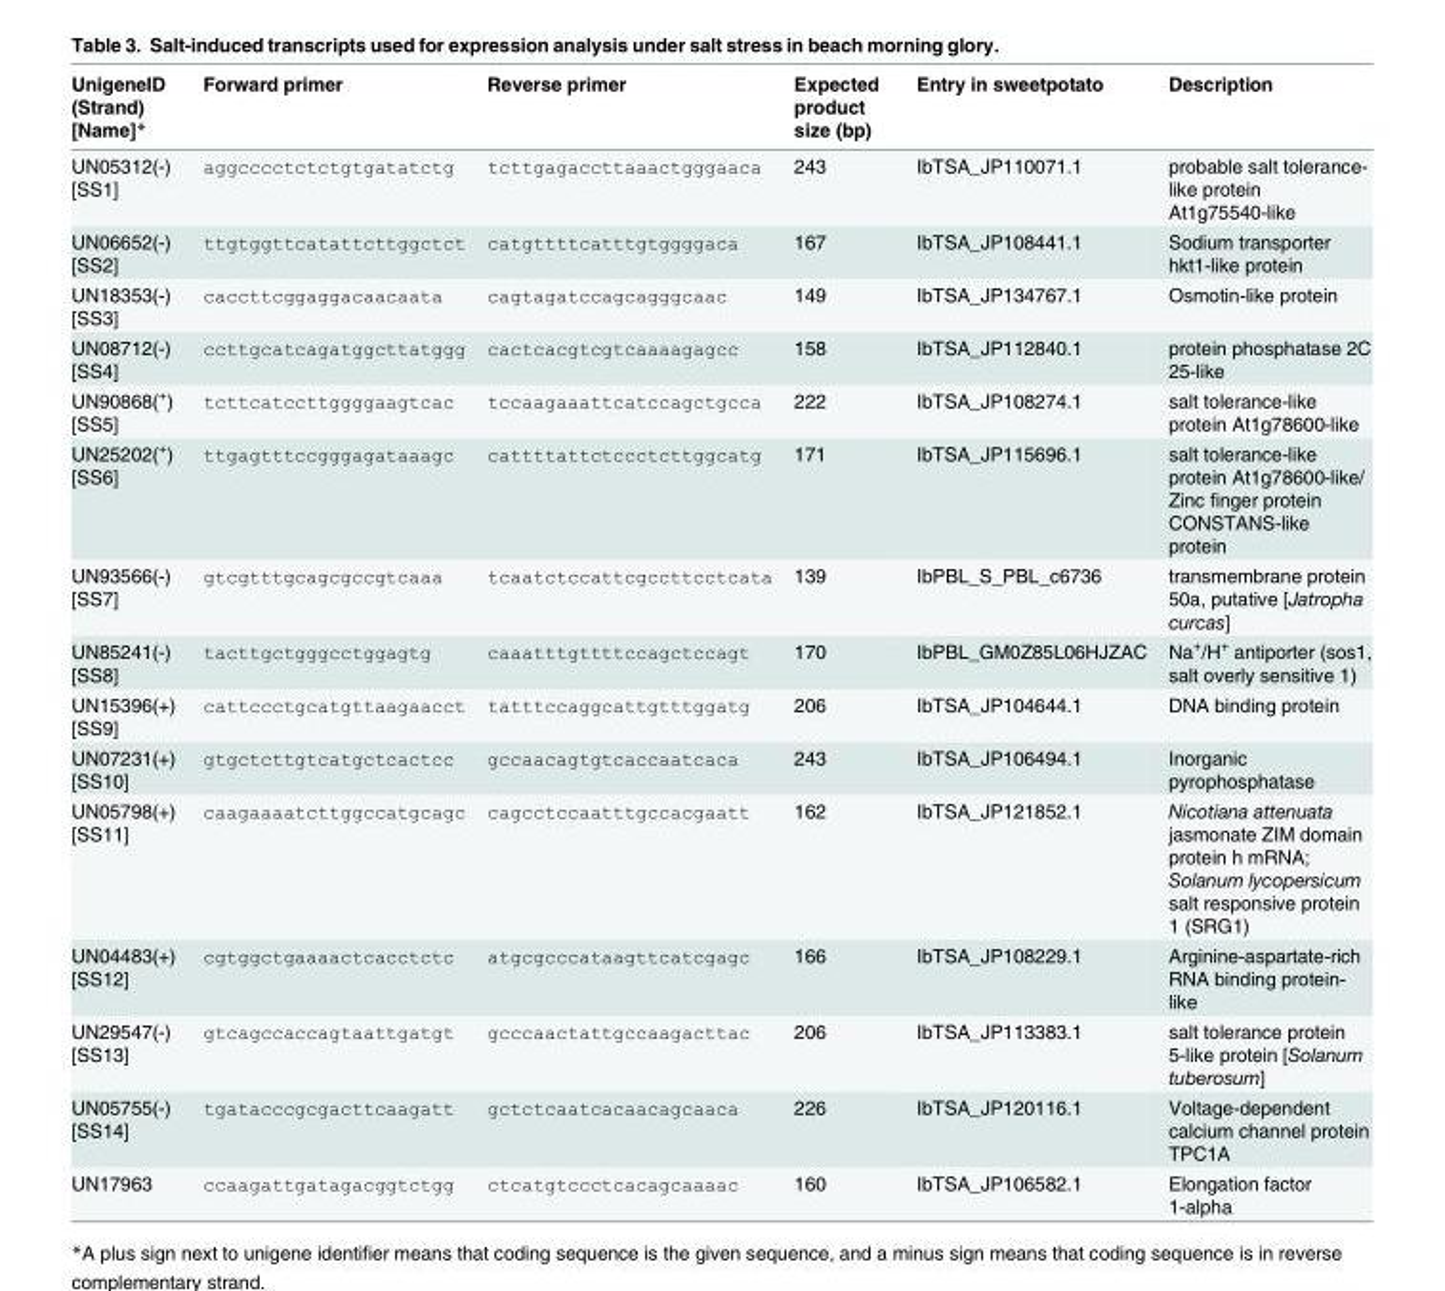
<table><thead><tr><td>UnigeneID (Strand) [Name]*</td><td>Forward primer</td><td>Reverse primer</td><td>Expected product size (bp)</td><td>Entry in sweetpotato</td><td>Description</td></tr></thead><tbody><tr><td>UN05312(-) [SS1]</td><td>aggcccctctctgtgatatctg</td><td>tcttgagaccttaaactgggaaca</td><td>243</td><td>IbTSA_JP110071.1</td><td>probable salt tolerance- like protein At1g75540-like</td></tr><tr><td>UN06652(-) [SS2]</td><td>ttgtggttcatattcttggctct</td><td>catgttttcatttgtggggaca</td><td>167</td><td>IbTSA_JP108441.1</td><td>Sodium transporter hkt1-like protein</td></tr><tr><td>UN18353(-) [SS3]</td><td>caccttcggaggacaacaata</td><td>cagtagatccagcagggcaac</td><td>149</td><td>IbTSA_JP134767.1</td><td>Osmotin-like protein</td></tr><tr><td>UN08712(-) [SS4]</td><td>ccttgcatcagatggcttatggg</td><td>cactcacgtcgtcaaaagagcc</td><td>158</td><td>IbTSA_JP112840.1</td><td>protein phosphatase 2C 25-like</td></tr><tr><td>UN90868(<sup>+</sup>) [SS5]</td><td>tcttcatccttggggaagtcac</td><td>tccaagaaattcatccagctgcca</td><td>222</td><td>IbTSA_JP108274.1</td><td>salt tolerance-like protein At1g78600-like</td></tr><tr><td>UN25202(<sup>+</sup>) [SS6]</td><td>ttgagtttccgggagataaagc</td><td>cattttattctccctcttggcatg</td><td>171</td><td>IbTSA_JP115696.1</td><td>salt tolerance-like protein At1g78600-like/ Zinc finger protein CONSTANS-like protein</td></tr><tr><td>UN93566(-) [SS7]</td><td>gtcgtttgcagcgccgtcaaa</td><td>tcaatctccattcgccttcctcata</td><td>139</td><td>IbPBL_S_PBL_c6736</td><td>transmembrane protein 50a, putative [Jatropha curcas]</td></tr><tr><td>UN85241(-) [SS8]</td><td>tacttgctgggcctggagtg</td><td>caaatttgttttccagctccagt</td><td>170</td><td>IbPBL_GM0Z85L06HJZAC</td><td>Na<sup>+</sup>/H<sup>+</sup> antiporter (sos1, salt overly sensitive 1)</td></tr><tr><td>UN15396(+) [SS9]</td><td>cattccctgcatgttaagaacct</td><td>tatttccaggcattgtttggatg</td><td>206</td><td>IbTSA_JP104644.1</td><td>DNA binding protein</td></tr><tr><td>UN07231(+) [SS10]</td><td>gtgctcttgtcatgctcactcc</td><td>gccaacagtgtcaccaatcaca</td><td>243</td><td>IbTSA_JP106494.1</td><td>Inorganic pyrophosphatase</td></tr><tr><td>UN05798(+) [SS11]</td><td>caagaaaatcttggccatgcagc</td><td>cagcctccaatttgccacgaatt</td><td>162</td><td>IbTSA_JP121852.1</td><td>Nicotiana attenuata jasmonate ZIM domain protein h mRNA; Solanum lycopersicum salt responsive protein 1 (SRG1)</td></tr><tr><td>UN04483(+) [SS12]</td><td>cgtggctgaaaactcacctctc</td><td>atgcgcccataagttcatcgagc</td><td>166</td><td>IbTSA_JP108229.1</td><td>Arginine-aspartate-rich RNA binding protein- like</td></tr><tr><td>UN29547(-) [SS13]</td><td>gtcagccaccagtaattgatgt</td><td>gcccaactattgccaagacttac</td><td>206</td><td>IbTSA_JP113383.1</td><td>salt tolerance protein 5-like protein [Solanum tuberosum]</td></tr><tr><td>UN05755(-) [SS14]</td><td>tgatacccgcgacttcaagatt</td><td>gctctcaatcacaacagcaaca</td><td>226</td><td>IbTSA_JP120116.1</td><td>Voltage-dependent calcium channel protein TPC1A</td></tr><tr><td>UN17963</td><td>ccaagattgatagacggtctgg</td><td>ctcatgtccctcacagcaaaac</td><td>160</td><td>IbTSA_JP106582.1</td><td>Elongation factor 1-alpha</td></tr></tbody></table>